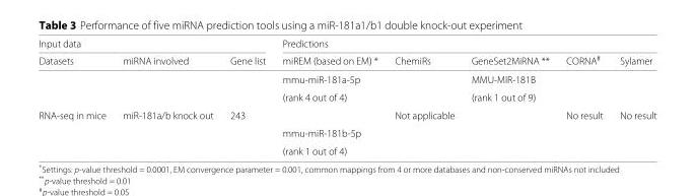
<table><thead><tr><td colspan="3">Input data</td><td colspan="4">Predictions</td><td rowspan="2">Sylamer</td></tr><tr><td>Datasets</td><td>miRNA involved</td><td>Gene list</td><td>miREM (based on EM) *</td><td>ChemiRs</td><td>GeneSet2MiRNA **</td><td>CORNA<sup>#</sup></td></tr></thead><tbody><tr><td></td><td></td><td></td><td>mmu-miR-181a-5p</td><td></td><td>MMU-MIR-181B</td><td></td><td></td></tr><tr><td></td><td></td><td></td><td>(rank 4 out of 4)</td><td></td><td>(rank 1 out of 9)</td><td></td><td></td></tr><tr><td rowspan="3">RNA-seq in mice</td><td>miR-181a/b knock out</td><td>243</td><td></td><td>Not applicable</td><td></td><td>No result</td><td>No result</td></tr><tr><td></td><td></td><td>mmu-miR-181b-5p</td><td></td><td></td><td></td><td></td></tr><tr><td></td><td></td><td>(rank 1 out of 4)</td><td></td><td></td><td></td><td></td></tr></tbody></table>